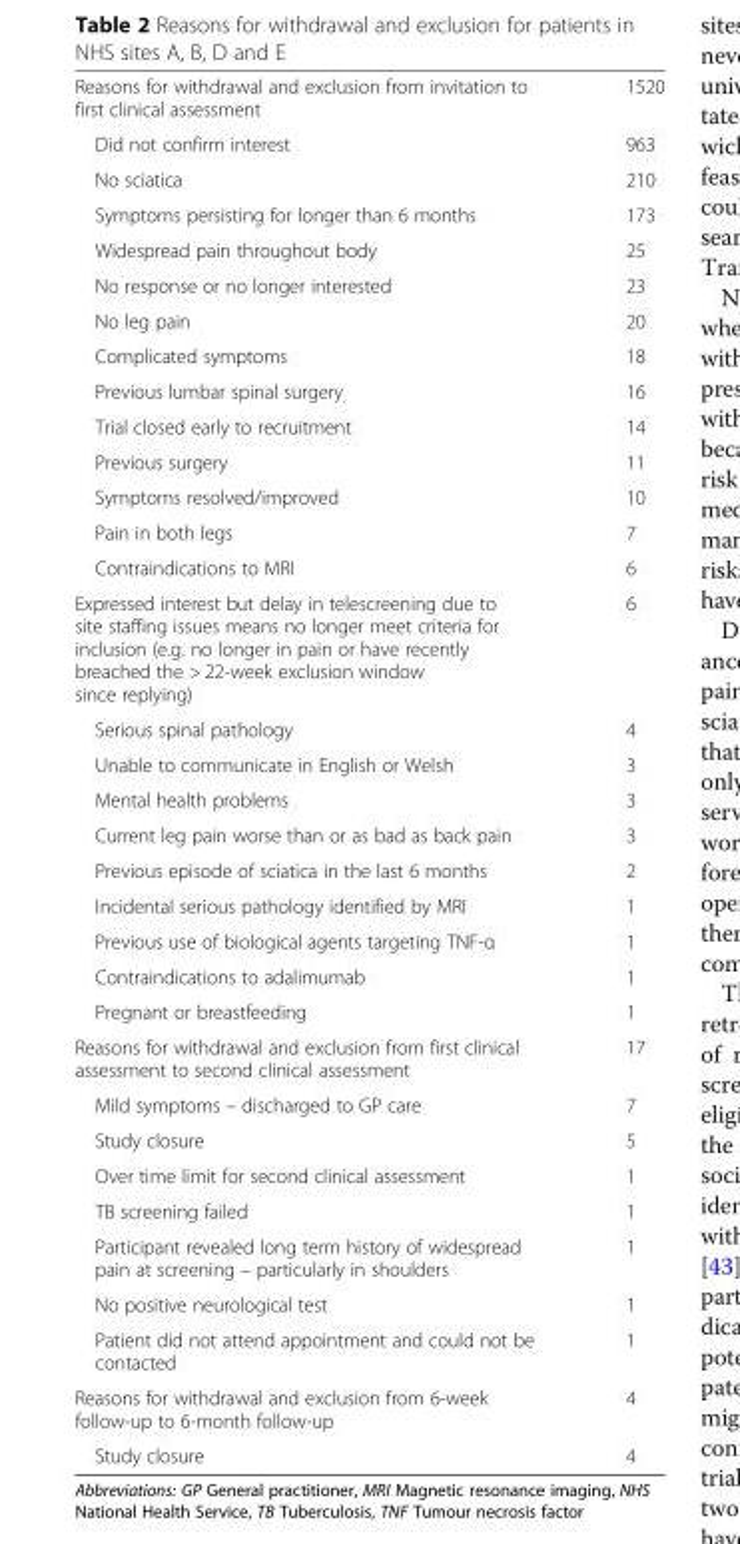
<table><tbody><tr><td>Reasons for withdrawal and exclusion from invitation to first clinical assessment</td><td>1520</td></tr><tr><td>Did not confirm interest</td><td>963</td></tr><tr><td>No sciatica</td><td>210</td></tr><tr><td>Symptoms persisting for longer than 6 months</td><td>173</td></tr><tr><td>Widespread pain throughout body</td><td>25</td></tr><tr><td>No response or no longer interested</td><td>23</td></tr><tr><td>No leg pain</td><td>20</td></tr><tr><td>Complicated symptoms</td><td>18</td></tr><tr><td>Previous lumbar spinal surgery</td><td>16</td></tr><tr><td>Trial closed early to recruitment</td><td>14</td></tr><tr><td>Previous surgery</td><td>11</td></tr><tr><td>Symptoms resolved/improved</td><td>10</td></tr><tr><td>Pain in both legs</td><td>7</td></tr><tr><td>Contraindications to MRI</td><td>6</td></tr><tr><td>Expressed interest but delay in telescreening due to site staffing issues means no longer meet criteria for inclusion (e.g. no longer in pain or have recently breached the &gt; 22-week exclusion window since replying)</td><td>6</td></tr><tr><td>Serious spinal pathology</td><td>4</td></tr><tr><td>Unable to communicate in English or Welsh</td><td>3</td></tr><tr><td>Mental health problems</td><td>3</td></tr><tr><td>Current leg pain worse than or as bad as back pain</td><td>3</td></tr><tr><td>Previous episode of sciatica in the last 6 months</td><td>2</td></tr><tr><td>Incidental serious pathology identified by MRI</td><td>1</td></tr><tr><td>Previous use of biological agents targeting TNF-α</td><td>1</td></tr><tr><td>Contraindications to adalimumab</td><td>1</td></tr><tr><td>Pregnant or breastfeeding</td><td>1</td></tr><tr><td>Reasons for withdrawal and exclusion from first clinical assessment to second clinical assessment</td><td>17</td></tr><tr><td>Mild symptoms – discharged to GP care</td><td>7</td></tr><tr><td>Study closure</td><td>5</td></tr><tr><td>Over time limit for second clinical assessment</td><td>1</td></tr><tr><td>TB screening failed</td><td>1</td></tr><tr><td>Participant revealed long term history of widespread pain at screening – particularly in shoulders</td><td>1</td></tr><tr><td>No positive neurological test</td><td>1</td></tr><tr><td>Patient did not attend appointment and could not be contacted</td><td>1</td></tr><tr><td>Reasons for withdrawal and exclusion from 6-week follow-up to 6-month follow-up</td><td>4</td></tr><tr><td>Study closure</td><td>4</td></tr></tbody></table>